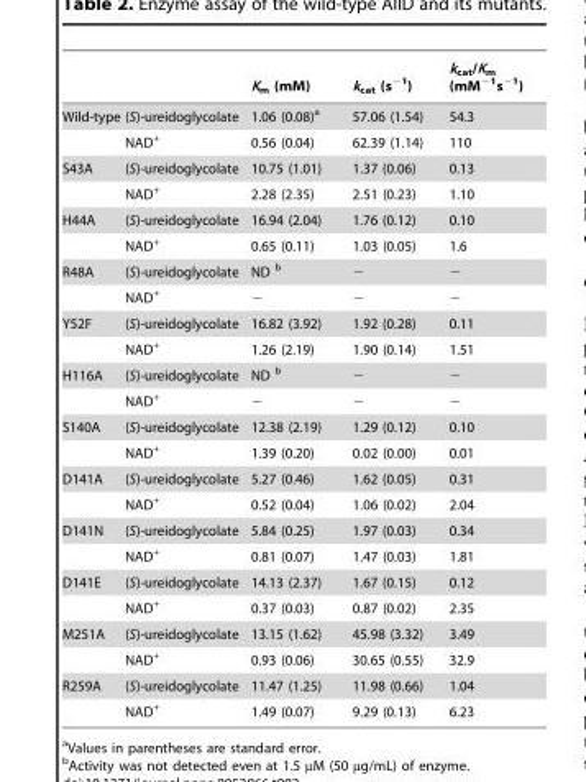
<table><thead><tr><td></td><td></td><td>K<sub>m</sub> (mM)</td><td>k<sub>cat</sub> (s<sup>−1</sup>)</td><td>k<sub>cat</sub>/K<sub>m</sub> (mM<sup>−1</sup>s<sup>−1</sup>)</td></tr></thead><tbody><tr><td rowspan="2">Wild-type</td><td>(S)-ureidoglycolate</td><td>1.06 (0.08)<sup>a</sup></td><td>57.06 (1.54)</td><td>54.3</td></tr><tr><td>NAD<sup>+</sup></td><td>0.56 (0.04)</td><td>62.39 (1.14)</td><td>110</td></tr><tr><td rowspan="2">S43A</td><td>(S)-ureidoglycolate</td><td>10.75 (1.01)</td><td>1.37 (0.06)</td><td>0.13</td></tr><tr><td>NAD<sup>+</sup></td><td>2.28 (2.35)</td><td>2.51 (0.23)</td><td>1.10</td></tr><tr><td rowspan="2">H44A</td><td>(S)-ureidoglycolate</td><td>16.94 (2.04)</td><td>1.76 (0.12)</td><td>0.10</td></tr><tr><td>NAD<sup>+</sup></td><td>0.65 (0.11)</td><td>1.03 (0.05)</td><td>1.6</td></tr><tr><td rowspan="2">R48A</td><td>(S)-ureidoglycolate</td><td>ND b</td><td>−</td><td>−</td></tr><tr><td>NAD<sup>+</sup></td><td>−</td><td>−</td><td>−</td></tr><tr><td rowspan="2">Y52F</td><td>(S)-ureidoglycolate</td><td>16.82 (3.92)</td><td>1.92 (0.28)</td><td>0.11</td></tr><tr><td>NAD<sup>+</sup></td><td>1.26 (2.19)</td><td>1.90 (0.14)</td><td>1.51</td></tr><tr><td rowspan="2">H116A</td><td>(S)-ureidoglycolate</td><td>ND b</td><td>−</td><td>−</td></tr><tr><td>NAD<sup>+</sup></td><td>−</td><td>−</td><td>−</td></tr><tr><td rowspan="2">S140A</td><td>(S)-ureidoglycolate</td><td>12.38 (2.19)</td><td>1.29 (0.12)</td><td>0.10</td></tr><tr><td>NAD<sup>+</sup></td><td>1.39 (0.20)</td><td>0.02 (0.00)</td><td>0.01</td></tr><tr><td rowspan="2">D141A</td><td>(S)-ureidoglycolate</td><td>5.27 (0.46)</td><td>1.62 (0.05)</td><td>0.31</td></tr><tr><td>NAD<sup>+</sup></td><td>0.52 (0.04)</td><td>1.06 (0.02)</td><td>2.04</td></tr><tr><td rowspan="2">D141N</td><td>(S)-ureidoglycolate</td><td>5.84 (0.25)</td><td>1.97 (0.03)</td><td>0.34</td></tr><tr><td>NAD<sup>+</sup></td><td>0.81 (0.07)</td><td>1.47 (0.03)</td><td>1.81</td></tr><tr><td rowspan="2">D141E</td><td>(S)-ureidoglycolate</td><td>14.13 (2.37)</td><td>1.67 (0.15)</td><td>0.12</td></tr><tr><td>NAD<sup>+</sup></td><td>0.37 (0.03)</td><td>0.87 (0.02)</td><td>2.35</td></tr><tr><td rowspan="2">M251A</td><td>(S)-ureidoglycolate</td><td>13.15 (1.62)</td><td>45.98 (3.32)</td><td>3.49</td></tr><tr><td>NAD<sup>+</sup></td><td>0.93 (0.06)</td><td>30.65 (0.55)</td><td>32.9</td></tr><tr><td rowspan="2">R259A</td><td>(S)-ureidoglycolate</td><td>11.47 (1.25)</td><td>11.98 (0.66)</td><td>1.04</td></tr><tr><td>NAD<sup>+</sup></td><td>1.49 (0.07)</td><td>9.29 (0.13)</td><td>6.23</td></tr></tbody></table>